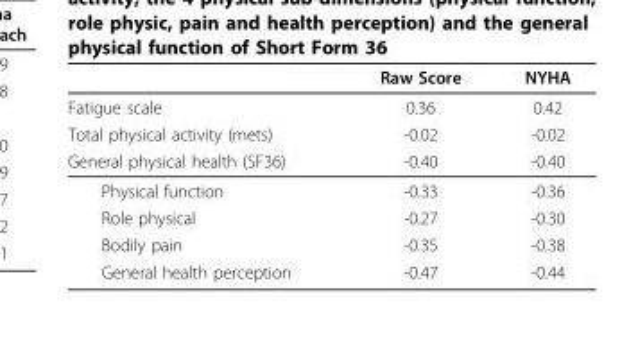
<table><thead><tr><td></td><td>Raw Score</td><td>NYHA</td></tr></thead><tbody><tr><td>Fatigue scale</td><td>0.36</td><td>0.42</td></tr><tr><td>Total physical activity (mets)</td><td>-0.02</td><td>-0.02</td></tr><tr><td>General physical health (SF36)</td><td>-0.40</td><td>-0.40</td></tr><tr><td>Physical function</td><td>-0.33</td><td>-0.36</td></tr><tr><td>Role physical</td><td>-0.27</td><td>-0.30</td></tr><tr><td>Bodily pain</td><td>-0.35</td><td>-0.38</td></tr><tr><td>General health perception</td><td>-0.47</td><td>-0.44</td></tr></tbody></table>